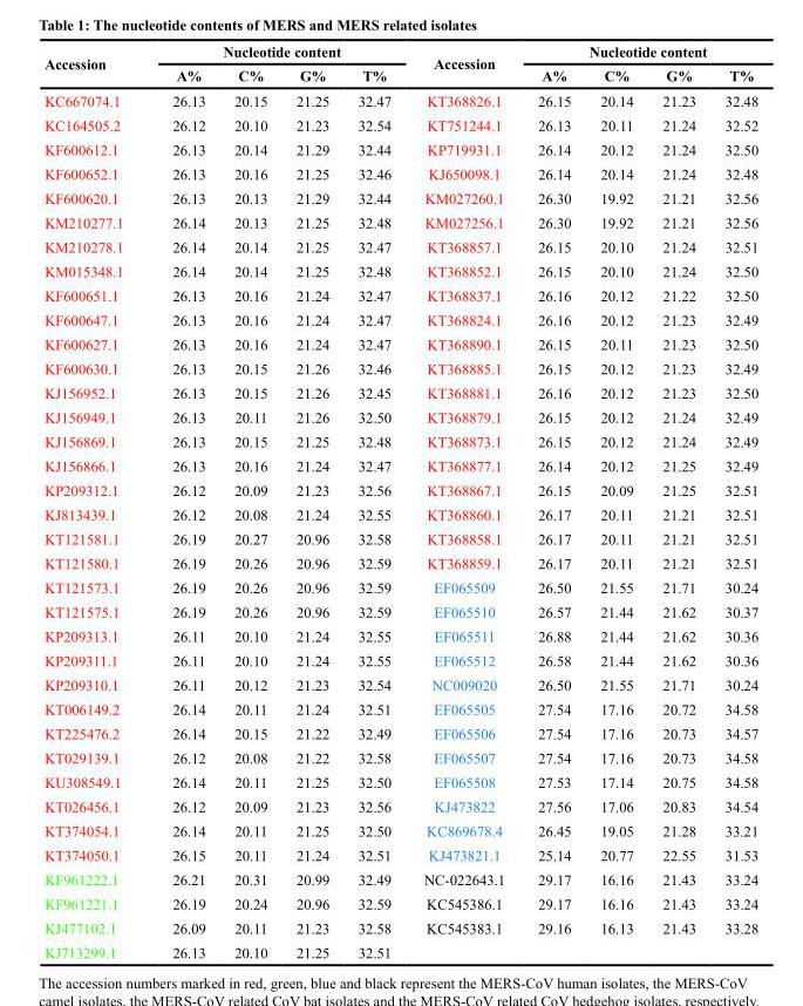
<table><thead><tr><td rowspan="2">Accession</td><td colspan="4">Nucleotide content</td><td rowspan="2">Accession</td><td colspan="4">Nucleotide content</td></tr><tr><td>A%</td><td>C%</td><td>G%</td><td>T%</td><td>A%</td><td>C%</td><td>G%</td><td>T%</td></tr></thead><tbody><tr><td>KC667074.1</td><td>26.13</td><td>20.15</td><td>21.25</td><td>32.47</td><td>KT368826.1</td><td>26.15</td><td>20.14</td><td>21.23</td><td>32.48</td></tr><tr><td>KC164505.2</td><td>26.12</td><td>20.10</td><td>21.23</td><td>32.54</td><td>KT751244.1</td><td>26.13</td><td>20.11</td><td>21.24</td><td>32.52</td></tr><tr><td>KF600612.1</td><td>26.13</td><td>20.14</td><td>21.29</td><td>32.44</td><td>KP719931.1</td><td>26.14</td><td>20.12</td><td>21.24</td><td>32.50</td></tr><tr><td>KF600652.1</td><td>26.13</td><td>20.16</td><td>21.25</td><td>32.46</td><td>KJ650098.1</td><td>26.14</td><td>20.14</td><td>21.24</td><td>32.48</td></tr><tr><td>KF600620.1</td><td>26.13</td><td>20.13</td><td>21.29</td><td>32.44</td><td>KM027260.1</td><td>26.30</td><td>19.92</td><td>21.21</td><td>32.56</td></tr><tr><td>KM210277.1</td><td>26.14</td><td>20.13</td><td>21.25</td><td>32.48</td><td>KM027256.1</td><td>26.30</td><td>19.92</td><td>21.21</td><td>32.56</td></tr><tr><td>KM210278.1</td><td>26.14</td><td>20.14</td><td>21.25</td><td>32.47</td><td>KT368857.1</td><td>26.15</td><td>20.10</td><td>21.24</td><td>32.51</td></tr><tr><td>KM015348.1</td><td>26.14</td><td>20.14</td><td>21.25</td><td>32.48</td><td>KT368852.1</td><td>26.15</td><td>20.10</td><td>21.24</td><td>32.50</td></tr><tr><td>KF600651.1</td><td>26.13</td><td>20.16</td><td>21.24</td><td>32.47</td><td>KT368837.1</td><td>26.16</td><td>20.12</td><td>21.22</td><td>32.50</td></tr><tr><td>KF600647.1</td><td>26.13</td><td>20.16</td><td>21.24</td><td>32.47</td><td>KT368824.1</td><td>26.16</td><td>20.12</td><td>21.23</td><td>32.49</td></tr><tr><td>KF600627.1</td><td>26.13</td><td>20.16</td><td>21.24</td><td>32.47</td><td>KT368890.1</td><td>26.15</td><td>20.11</td><td>21.23</td><td>32.50</td></tr><tr><td>KF600630.1</td><td>26.13</td><td>20.15</td><td>21.26</td><td>32.46</td><td>KT368885.1</td><td>26.15</td><td>20.12</td><td>21.23</td><td>32.49</td></tr><tr><td>KJ156952.1</td><td>26.13</td><td>20.15</td><td>21.26</td><td>32.45</td><td>KT368881.1</td><td>26.16</td><td>20.12</td><td>21.23</td><td>32.50</td></tr><tr><td>KJ156949.1</td><td>26.13</td><td>20.11</td><td>21.26</td><td>32.50</td><td>KT368879.1</td><td>26.15</td><td>20.12</td><td>21.24</td><td>32.49</td></tr><tr><td>KJ156869.1</td><td>26.13</td><td>20.15</td><td>21.25</td><td>32.48</td><td>KT368873.1</td><td>26.15</td><td>20.12</td><td>21.24</td><td>32.49</td></tr><tr><td>KJ156866.1</td><td>26.13</td><td>20.16</td><td>21.24</td><td>32.47</td><td>KT368877.1</td><td>26.14</td><td>20.12</td><td>21.25</td><td>32.49</td></tr><tr><td>KP209312.1</td><td>26.12</td><td>20.09</td><td>21.23</td><td>32.56</td><td>KT368867.1</td><td>26.15</td><td>20.09</td><td>21.25</td><td>32.51</td></tr><tr><td>KJ813439.1</td><td>26.12</td><td>20.08</td><td>21.24</td><td>32.55</td><td>KT368860.1</td><td>26.17</td><td>20.11</td><td>21.21</td><td>32.51</td></tr><tr><td>KT121581.1</td><td>26.19</td><td>20.27</td><td>20.96</td><td>32.58</td><td>KT368858.1</td><td>26.17</td><td>20.11</td><td>21.21</td><td>32.51</td></tr><tr><td>KT121580.1</td><td>26.19</td><td>20.26</td><td>20.96</td><td>32.59</td><td>KT368859.1</td><td>26.17</td><td>20.11</td><td>21.21</td><td>32.51</td></tr><tr><td>KT121573.1</td><td>26.19</td><td>20.26</td><td>20.96</td><td>32.59</td><td>EF065509</td><td>26.50</td><td>21.55</td><td>21.71</td><td>30.24</td></tr><tr><td>KT121575.1</td><td>26.19</td><td>20.26</td><td>20.96</td><td>32.59</td><td>EF065510</td><td>26.57</td><td>21.44</td><td>21.62</td><td>30.37</td></tr><tr><td>KP209313.1</td><td>26.11</td><td>20.10</td><td>21.24</td><td>32.55</td><td>EF065511</td><td>26.88</td><td>21.44</td><td>21.62</td><td>30.36</td></tr><tr><td>KP209311.1</td><td>26.11</td><td>20.10</td><td>21.24</td><td>32.55</td><td>EF065512</td><td>26.58</td><td>21.44</td><td>21.62</td><td>30.36</td></tr><tr><td>KP209310.1</td><td>26.11</td><td>20.12</td><td>21.23</td><td>32.54</td><td>NC009020</td><td>26.50</td><td>21.55</td><td>21.71</td><td>30.24</td></tr><tr><td>KT006149.2</td><td>26.14</td><td>20.11</td><td>21.24</td><td>32.51</td><td>EF065505</td><td>27.54</td><td>17.16</td><td>20.72</td><td>34.58</td></tr><tr><td>KT225476.2</td><td>26.14</td><td>20.15</td><td>21.22</td><td>32.49</td><td>EF065506</td><td>27.54</td><td>17.16</td><td>20.73</td><td>34.57</td></tr><tr><td>KT029139.1</td><td>26.12</td><td>20.08</td><td>21.22</td><td>32.58</td><td>EF065507</td><td>27.54</td><td>17.16</td><td>20.73</td><td>34.58</td></tr><tr><td>KU308549.1</td><td>26.14</td><td>20.11</td><td>21.25</td><td>32.50</td><td>EF065508</td><td>27.53</td><td>17.14</td><td>20.75</td><td>34.58</td></tr><tr><td>KT026456.1</td><td>26.12</td><td>20.09</td><td>21.23</td><td>32.56</td><td>KJ473822</td><td>27.56</td><td>17.06</td><td>20.83</td><td>34.54</td></tr><tr><td>KT374054.1</td><td>26.14</td><td>20.11</td><td>21.25</td><td>32.50</td><td>KC869678.4</td><td>26.45</td><td>19.05</td><td>21.28</td><td>33.21</td></tr><tr><td>KT374050.1</td><td>26.15</td><td>20.11</td><td>21.24</td><td>32.51</td><td>KJ473821.1</td><td>25.14</td><td>20.77</td><td>22.55</td><td>31.53</td></tr><tr><td>KF961222.1</td><td>26.21</td><td>20.31</td><td>20.99</td><td>32.49</td><td>NC-022643.1</td><td>29.17</td><td>16.16</td><td>21.43</td><td>33.24</td></tr><tr><td>KF961221.1</td><td>26.19</td><td>20.24</td><td>20.96</td><td>32.59</td><td>KC545386.1</td><td>29.17</td><td>16.16</td><td>21.43</td><td>33.24</td></tr><tr><td>KJ477102.1</td><td>26.09</td><td>20.11</td><td>21.23</td><td>32.58</td><td>KC545383.1</td><td>29.16</td><td>16.13</td><td>21.43</td><td>33.28</td></tr><tr><td>KJ713299.1</td><td>26.13</td><td>20.10</td><td>21.25</td><td>32.51</td><td></td><td></td><td></td><td></td><td></td></tr></tbody></table>